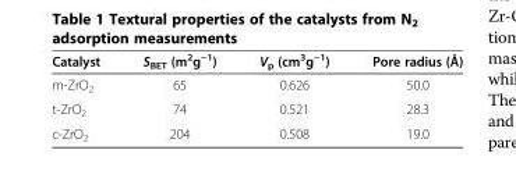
<table><thead><tr><td>Catalyst</td><td>S<sub>BET</sub> (m<sup>2</sup>g<sup>−1</sup>)</td><td>V<sub>p</sub> (cm<sup>3</sup>g<sup>−1</sup>)</td><td>Pore radius (Å)</td></tr></thead><tbody><tr><td>m-ZrO<sub>2</sub></td><td>65</td><td>0.626</td><td>50.0</td></tr><tr><td>t-ZrO<sub>2</sub></td><td>74</td><td>0.521</td><td>28.3</td></tr><tr><td>c-ZrO<sub>2</sub></td><td>204</td><td>0.508</td><td>19.0</td></tr></tbody></table>